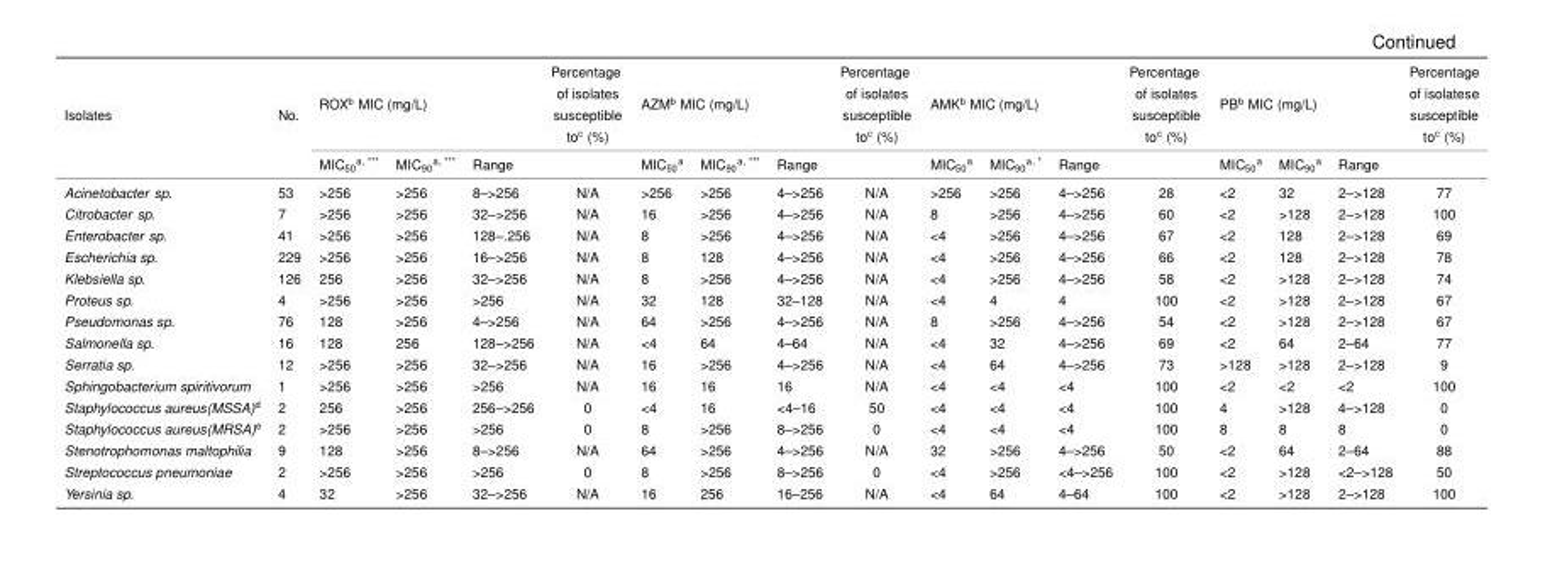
<table><thead><tr><td rowspan="2">Isolates</td><td rowspan="2">No.</td><td colspan="3">ROX<sup>b</sup> MIC (mg/L)</td><td rowspan="2">Percentage of isolates susceptible to<sup>c</sup> (%)</td><td colspan="3">AZM<sup>b</sup> MIC (mg/L)</td><td rowspan="2">Percentage of isolates susceptible to<sup>c</sup> (%)</td><td colspan="3">AMK<sup>b</sup> MIC (mg/L)</td><td rowspan="2">Percentage of isolates susceptible to<sup>c</sup> (%)</td><td colspan="3">PB<sup>b</sup> MIC (mg/L)</td><td rowspan="2">Percentage of isolatese susceptible toc (%)</td></tr><tr><td>MIC<sub>50</sub><sup>a, ***</sup></td><td>MIC<sub>90</sub><sup>a, ***</sup></td><td>Range</td><td>MIC<sub>50</sub><sup>a</sup></td><td>MIC<sub>90</sub><sup>a, ***</sup></td><td>Range</td><td>MIC<sub>50</sub><sup>a</sup></td><td>MIC<sub>90</sub><sup>a, *</sup></td><td>Range</td><td>MIC<sub>50</sub><sup>a</sup></td><td>MIC<sub>90</sub><sup>a</sup></td><td>Range</td></tr></thead><tbody><tr><td>Acinetobacter sp.</td><td>53</td><td>&gt;256</td><td>&gt;256</td><td>8–&gt;256</td><td>N/A</td><td>&gt;256</td><td>&gt;256</td><td>4–&gt;256</td><td>N/A</td><td>&gt;256</td><td>&gt;256</td><td>4–&gt;256</td><td>28</td><td>&lt;2</td><td>32</td><td>2–&gt;128</td><td>77</td></tr><tr><td>Citrobacter sp.</td><td>7</td><td>&gt;256</td><td>&gt;256</td><td>32–&gt;256</td><td>N/A</td><td>16</td><td>&gt;256</td><td>4–&gt;256</td><td>N/A</td><td>8</td><td>&gt;256</td><td>4–&gt;256</td><td>60</td><td>&lt;2</td><td>&gt;128</td><td>2–&gt;128</td><td>100</td></tr><tr><td>Enterobacter sp.</td><td>41</td><td>&gt;256</td><td>&gt;256</td><td>128–.256</td><td>N/A</td><td>8</td><td>&gt;256</td><td>4–&gt;256</td><td>N/A</td><td>&lt;4</td><td>&gt;256</td><td>4–&gt;256</td><td>67</td><td>&lt;2</td><td>128</td><td>2–&gt;128</td><td>69</td></tr><tr><td>Escherichia sp.</td><td>229</td><td>&gt;256</td><td>&gt;256</td><td>16–&gt;256</td><td>N/A</td><td>8</td><td>128</td><td>4–&gt;256</td><td>N/A</td><td>&lt;4</td><td>&gt;256</td><td>4–&gt;256</td><td>66</td><td>&lt;2</td><td>128</td><td>2–&gt;128</td><td>78</td></tr><tr><td>Klebsiella sp.</td><td>126</td><td>256</td><td>&gt;256</td><td>32–&gt;256</td><td>N/A</td><td>8</td><td>&gt;256</td><td>4–&gt;256</td><td>N/A</td><td>&lt;4</td><td>&gt;256</td><td>4–&gt;256</td><td>58</td><td>&lt;2</td><td>&gt;128</td><td>2–&gt;128</td><td>74</td></tr><tr><td>Proteus sp.</td><td>4</td><td>&gt;256</td><td>&gt;256</td><td>&gt;256</td><td>N/A</td><td>32</td><td>128</td><td>32–128</td><td>N/A</td><td>&lt;4</td><td>4</td><td>4</td><td>100</td><td>&lt;2</td><td>&gt;128</td><td>2–&gt;128</td><td>67</td></tr><tr><td>Pseudomonas sp.</td><td>76</td><td>128</td><td>&gt;256</td><td>4–&gt;256</td><td>N/A</td><td>64</td><td>&gt;256</td><td>4–&gt;256</td><td>N/A</td><td>8</td><td>&gt;256</td><td>4–&gt;256</td><td>54</td><td>&lt;2</td><td>&gt;128</td><td>2–&gt;128</td><td>67</td></tr><tr><td>Salmonella sp.</td><td>16</td><td>128</td><td>256</td><td>128–&gt;256</td><td>N/A</td><td>&lt;4</td><td>64</td><td>4–64</td><td>N/A</td><td>&lt;4</td><td>32</td><td>4–&gt;256</td><td>69</td><td>&lt;2</td><td>64</td><td>2–64</td><td>77</td></tr><tr><td>Serratia sp.</td><td>12</td><td>&gt;256</td><td>&gt;256</td><td>32–&gt;256</td><td>N/A</td><td>16</td><td>&gt;256</td><td>4–&gt;256</td><td>N/A</td><td>&lt;4</td><td>64</td><td>4–&gt;256</td><td>73</td><td>&gt;128</td><td>&gt;128</td><td>2–&gt;128</td><td>9</td></tr><tr><td>Sphingobacterium spiritivorum</td><td>1</td><td>&gt;256</td><td>&gt;256</td><td>&gt;256</td><td>N/A</td><td>16</td><td>16</td><td>16</td><td>N/A</td><td>&lt;4</td><td>&lt;4</td><td>&lt;4</td><td>100</td><td>&lt;2</td><td>&lt;2</td><td>&lt;2</td><td>100</td></tr><tr><td>Staphylococcus aureus(MSSA)<sup>d</sup></td><td>2</td><td>256</td><td>&gt;256</td><td>256–&gt;256</td><td>0</td><td>&lt;4</td><td>16</td><td>&lt;4–16</td><td>50</td><td>&lt;4</td><td>&lt;4</td><td>&lt;4</td><td>100</td><td>4</td><td>&gt;128</td><td>4–&gt;128</td><td>0</td></tr><tr><td>Staphylococcus aureus(MRSA)<sup>e</sup></td><td>2</td><td>&gt;256</td><td>&gt;256</td><td>&gt;256</td><td>0</td><td>8</td><td>&gt;256</td><td>8–&gt;256</td><td>0</td><td>&lt;4</td><td>&lt;4</td><td>&lt;4</td><td>100</td><td>8</td><td>8</td><td>8</td><td>0</td></tr><tr><td>Stenotrophomonas maltophilia</td><td>9</td><td>128</td><td>&gt;256</td><td>8–&gt;256</td><td>N/A</td><td>64</td><td>&gt;256</td><td>4–&gt;256</td><td>N/A</td><td>32</td><td>&gt;256</td><td>4–&gt;256</td><td>50</td><td>&lt;2</td><td>64</td><td>2–64</td><td>88</td></tr><tr><td>Streptococcus pneumoniae</td><td>2</td><td>&gt;256</td><td>&gt;256</td><td>&gt;256</td><td>0</td><td>8</td><td>&gt;256</td><td>8–&gt;256</td><td>0</td><td>&lt;4</td><td>&gt;256</td><td>&lt;4–&gt;256</td><td>100</td><td>&lt;2</td><td>&gt;128</td><td>&lt;2–&gt;128</td><td>50</td></tr><tr><td>Yersinia sp.</td><td>4</td><td>32</td><td>&gt;256</td><td>32–&gt;256</td><td>N/A</td><td>16</td><td>256</td><td>16–256</td><td>N/A</td><td>&lt;4</td><td>64</td><td>4–64</td><td>100</td><td>&lt;2</td><td>&gt;128</td><td>2–&gt;128</td><td>100</td></tr></tbody></table>